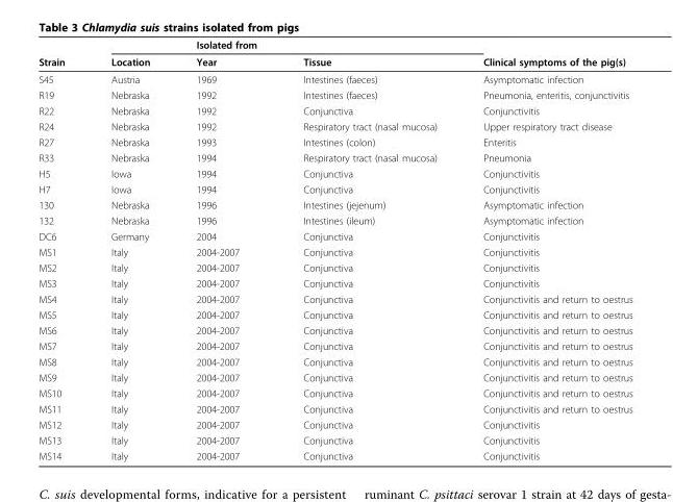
<table><thead><tr><td rowspan="2">Strain</td><td rowspan="2">Location</td><td rowspan="2">Isolated from Year</td><td rowspan="2">Tissue</td><td rowspan="2">Clinical symptoms of the pig(s)</td></tr><tr></tr></thead><tbody><tr><td>S45</td><td>Austria</td><td>1969</td><td>Intestines (faeces)</td><td>Asymptomatic infection</td></tr><tr><td>R19</td><td>Nebraska</td><td>1992</td><td>Intestines (faeces)</td><td>Pneumonia, enteritis, conjunctivitis</td></tr><tr><td>R22</td><td>Nebraska</td><td>1992</td><td>Conjunctiva</td><td>Conjunctivitis</td></tr><tr><td>R24</td><td>Nebraska</td><td>1992</td><td>Respiratory tract (nasal mucosa)</td><td>Upper respiratory tract disease</td></tr><tr><td>R27</td><td>Nebraska</td><td>1993</td><td>Intestines (colon)</td><td>Enteritis</td></tr><tr><td>R33</td><td>Nebraska</td><td>1994</td><td>Respiratory tract (nasal mucosa)</td><td>Pneumonia</td></tr><tr><td>H5</td><td>Iowa</td><td>1994</td><td>Conjunctiva</td><td>Conjunctivitis</td></tr><tr><td>H7</td><td>Iowa</td><td>1994</td><td>Conjunctiva</td><td>Conjunctivitis</td></tr><tr><td>130</td><td>Nebraska</td><td>1996</td><td>Intestines (jejenum)</td><td>Asymptomatic infection</td></tr><tr><td>132</td><td>Nebraska</td><td>1996</td><td>Intestines (ileum)</td><td>Asymptomatic infection</td></tr><tr><td>DC6</td><td>Germany</td><td>2004</td><td>Conjunctiva</td><td>Conjunctivitis</td></tr><tr><td>MS1</td><td>Italy</td><td>2004-2007</td><td>Conjunctiva</td><td>Conjunctivitis</td></tr><tr><td>MS2</td><td>Italy</td><td>2004-2007</td><td>Conjunctiva</td><td>Conjunctivitis</td></tr><tr><td>MS3</td><td>Italy</td><td>2004-2007</td><td>Conjunctiva</td><td>Conjunctivitis</td></tr><tr><td>MS4</td><td>Italy</td><td>2004-2007</td><td>Conjunctiva</td><td>Conjunctivitis and return to oestrus</td></tr><tr><td>MS5</td><td>Italy</td><td>2004-2007</td><td>Conjunctiva</td><td>Conjunctivitis and return to oestrus</td></tr><tr><td>MS6</td><td>Italy</td><td>2004-2007</td><td>Conjunctiva</td><td>Conjunctivitis and return to oestrus</td></tr><tr><td>MS7</td><td>Italy</td><td>2004-2007</td><td>Conjunctiva</td><td>Conjunctivitis and return to oestrus</td></tr><tr><td>MS8</td><td>Italy</td><td>2004-2007</td><td>Conjunctiva</td><td>Conjunctivitis and return to oestrus</td></tr><tr><td>MS9</td><td>Italy</td><td>2004-2007</td><td>Conjunctiva</td><td>Conjunctivitis and return to oestrus</td></tr><tr><td>MS10</td><td>Italy</td><td>2004-2007</td><td>Conjunctiva</td><td>Conjunctivitis and return to oestrus</td></tr><tr><td>MS11</td><td>Italy</td><td>2004-2007</td><td>Conjunctiva</td><td>Conjunctivitis and return to oestrus</td></tr><tr><td>MS12</td><td>Italy</td><td>2004-2007</td><td>Conjunctiva</td><td>Conjunctivitis</td></tr><tr><td>MS13</td><td>Italy</td><td>2004-2007</td><td>Conjunctiva</td><td>Conjunctivitis</td></tr><tr><td>MS14</td><td>Italy</td><td>2004-2007</td><td>Conjunctiva</td><td>Conjunctivitis</td></tr></tbody></table>